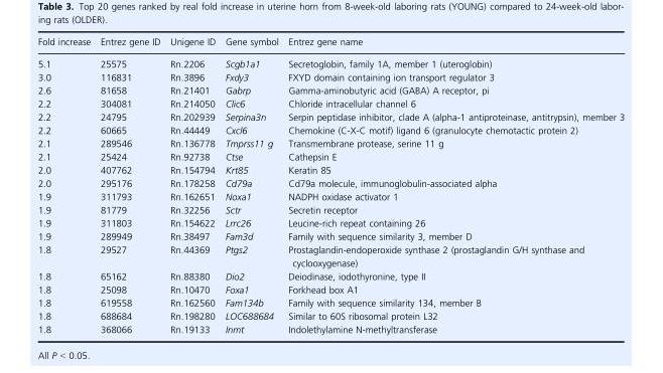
<table><thead><tr><td>Fold increase</td><td>Entrez gene ID</td><td>Unigene ID</td><td>Gene symbol</td><td>Entrez gene name</td></tr></thead><tbody><tr><td>5.1</td><td>25575</td><td>Rn.2206</td><td>Scgb1a1</td><td>Secretoglobin, family 1A, member 1 (uteroglobin)</td></tr><tr><td>3.0</td><td>116831</td><td>Rn.3896</td><td>Fxdy3</td><td>FXYD domain containing ion transport regulator 3</td></tr><tr><td>2.6</td><td>81658</td><td>Rn.21401</td><td>Gabrp</td><td>Gamma-aminobutyric acid (GABA) A receptor, pi</td></tr><tr><td>2.2</td><td>304081</td><td>Rn.214050</td><td>Clic6</td><td>Chloride intracellular channel 6</td></tr><tr><td>2.2</td><td>24795</td><td>Rn.202939</td><td>Serpina3n</td><td>Serpin peptidase inhibitor, clade A (alpha-1 antiproteinase, antitrypsin), member 3</td></tr><tr><td>2.2</td><td>60665</td><td>Rn.44449</td><td>Cxcl6</td><td>Chemokine (C-X-C motif) ligand 6 (granulocyte chemotactic protein 2)</td></tr><tr><td>2.1</td><td>289546</td><td>Rn.136778</td><td>Tmprss11 g</td><td>Transmembrane protease, serine 11 g</td></tr><tr><td>2.1</td><td>25424</td><td>Rn.92738</td><td>Ctse</td><td>Cathepsin E</td></tr><tr><td>2.0</td><td>407762</td><td>Rn.154794</td><td>Krt85</td><td>Keratin 85</td></tr><tr><td>2.0</td><td>295176</td><td>Rn.178258</td><td>Cd79a</td><td>Cd79a molecule, immunoglobulin-associated alpha</td></tr><tr><td>1.9</td><td>311793</td><td>Rn.162651</td><td>Noxa1</td><td>NADPH oxidase activator 1</td></tr><tr><td>1.9</td><td>81779</td><td>Rn.32256</td><td>Sctr</td><td>Secretin receptor</td></tr><tr><td>1.9</td><td>311803</td><td>Rn.154622</td><td>Lrrc26</td><td>Leucine-rich repeat containing 26</td></tr><tr><td>1.9</td><td>289949</td><td>Rn.38497</td><td>Fam3d</td><td>Family with sequence similarity 3, member D</td></tr><tr><td>1.8</td><td>29527</td><td>Rn.44369</td><td>Ptgs2</td><td>Prostaglandin-endoperoxide synthase 2 (prostaglandin G/H synthase and cyclooxygenase)</td></tr><tr><td>1.8</td><td>65162</td><td>Rn.88380</td><td>Dio2</td><td>Deiodinase, iodothyronine, type II</td></tr><tr><td>1.8</td><td>25098</td><td>Rn.10470</td><td>Foxa1</td><td>Forkhead box A1</td></tr><tr><td>1.8</td><td>619558</td><td>Rn.162560</td><td>Fam134b</td><td>Family with sequence similarity 134, member B</td></tr><tr><td>1.8</td><td>688684</td><td>Rn.198280</td><td>LOC688684</td><td>Similar to 60S ribosomal protein L32</td></tr><tr><td>1.8</td><td>368066</td><td>Rn.19133</td><td>Inmt</td><td>Indolethylamine N-methyltransferase</td></tr></tbody></table>